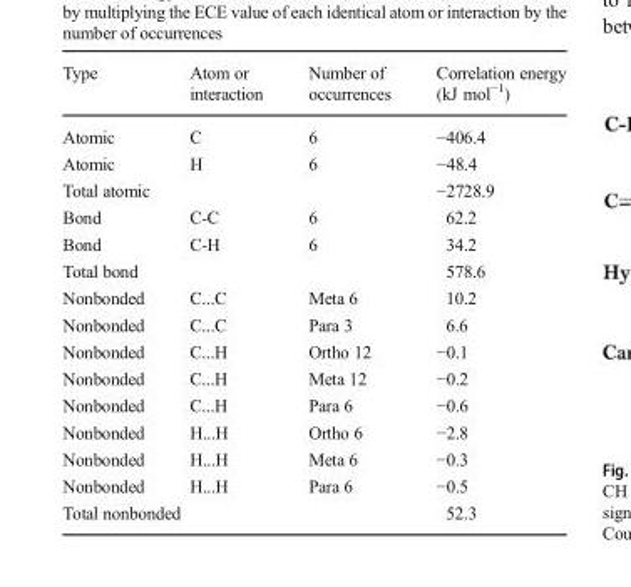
<table><thead><tr><td>Type</td><td>Atom or interaction</td><td>Number of occurrences</td><td>Correlation energy (kJ mol<sup>−1</sup>)</td></tr></thead><tbody><tr><td>Atomic</td><td>C</td><td>6</td><td>−406.4</td></tr><tr><td>Atomic</td><td>H</td><td>6</td><td>−48.4</td></tr><tr><td colspan="3">Total atomic</td><td>−2728.9</td></tr><tr><td>Bond</td><td>C-C</td><td>6</td><td>62.2</td></tr><tr><td>Bond</td><td>C-H</td><td>6</td><td>34.2</td></tr><tr><td colspan="3">Total bond</td><td>578.6</td></tr><tr><td>Nonbonded</td><td>C...C</td><td>Meta 6</td><td>10.2</td></tr><tr><td>Nonbonded</td><td>C...C</td><td>Para 3</td><td>6.6</td></tr><tr><td>Nonbonded</td><td>C...H</td><td>Ortho 12</td><td>−0.1</td></tr><tr><td>Nonbonded</td><td>C...H</td><td>Meta 12</td><td>−0.2</td></tr><tr><td>Nonbonded</td><td>C...H</td><td>Para 6</td><td>−0.6</td></tr><tr><td>Nonbonded</td><td>H...H</td><td>Ortho 6</td><td>−2.8</td></tr><tr><td>Nonbonded</td><td>H...H</td><td>Meta 6</td><td>−0.3</td></tr><tr><td>Nonbonded</td><td>H...H</td><td>Para 6</td><td>−0.5</td></tr><tr><td colspan="3">Total nonbonded</td><td>52.3</td></tr></tbody></table>